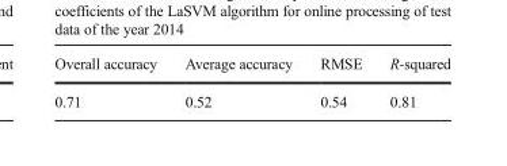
<table><thead><tr><td>Overall accuracy</td><td>Average accuracy</td><td>RMSE</td><td>R-squared</td></tr></thead><tbody><tr><td>0.71</td><td>0.52</td><td>0.54</td><td>0.81</td></tr></tbody></table>